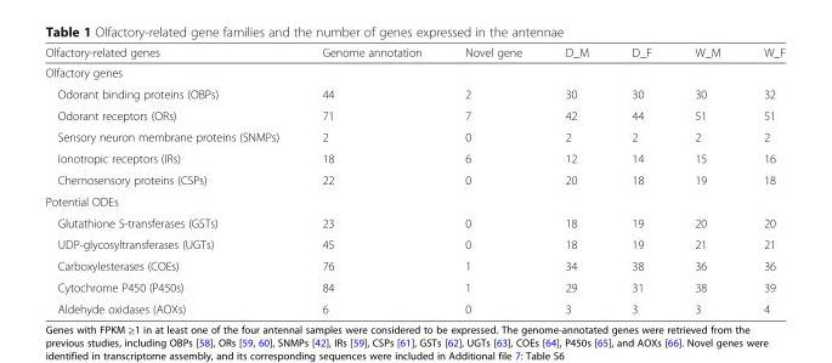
<table><thead><tr><td>Olfactory-related genes</td><td>Genome annotation</td><td>Novel gene</td><td>D_M</td><td>D_F</td><td>W_M</td><td>W_F</td></tr></thead><tbody><tr><td colspan="7">Olfactory genes</td></tr><tr><td>Odorant binding proteins (OBPs)</td><td>44</td><td>2</td><td>30</td><td>30</td><td>30</td><td>32</td></tr><tr><td>Odorant receptors (ORs)</td><td>71</td><td>7</td><td>42</td><td>44</td><td>51</td><td>51</td></tr><tr><td>Sensory neuron membrane proteins (SNMPs)</td><td>2</td><td>0</td><td>2</td><td>2</td><td>2</td><td>2</td></tr><tr><td>Ionotropic receptors (IRs)</td><td>18</td><td>6</td><td>12</td><td>14</td><td>15</td><td>16</td></tr><tr><td>Chemosensory proteins (CSPs)</td><td>22</td><td>0</td><td>20</td><td>18</td><td>19</td><td>18</td></tr><tr><td colspan="7">Potential ODEs</td></tr><tr><td>Glutathione S-transferases (GSTs)</td><td>23</td><td>0</td><td>18</td><td>19</td><td>20</td><td>20</td></tr><tr><td>UDP-glycosyltransferases (UGTs)</td><td>45</td><td>0</td><td>18</td><td>19</td><td>21</td><td>21</td></tr><tr><td>Carboxylesterases (COEs)</td><td>76</td><td>1</td><td>34</td><td>38</td><td>36</td><td>36</td></tr><tr><td>Cytochrome P450 (P450s)</td><td>84</td><td>1</td><td>29</td><td>31</td><td>38</td><td>39</td></tr><tr><td>Aldehyde oxidases (AOXs)</td><td>6</td><td>0</td><td>3</td><td>3</td><td>3</td><td>4</td></tr></tbody></table>